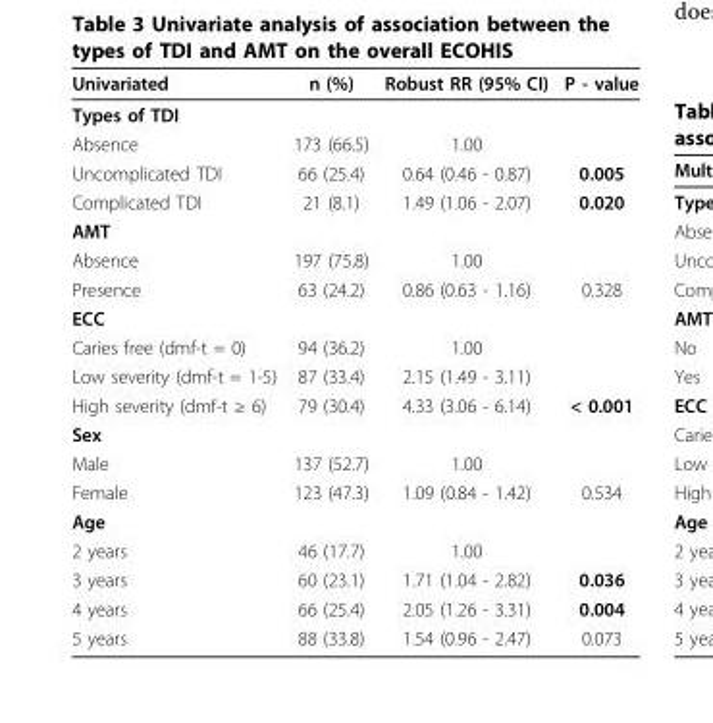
<table><thead><tr><td>Univariated</td><td>n (%)</td><td>Robust RR (95% CI)</td><td>P - value</td></tr></thead><tbody><tr><td colspan="4">Types of TDI</td></tr><tr><td>Absence</td><td>173 (66.5)</td><td>1.00</td><td></td></tr><tr><td>Uncomplicated TDI</td><td>66 (25.4)</td><td>0.64 (0.46 - 0.87)</td><td>0.005</td></tr><tr><td>Complicated TDI</td><td>21 (8.1)</td><td>1.49 (1.06 - 2.07)</td><td>0.020</td></tr><tr><td colspan="4">AMT</td></tr><tr><td>Absence</td><td>197 (75.8)</td><td>1.00</td><td></td></tr><tr><td>Presence</td><td>63 (24.2)</td><td>0.86 (0.63 - 1.16)</td><td>0.328</td></tr><tr><td colspan="4">ECC</td></tr><tr><td>Caries free (dmf-t = 0)</td><td>94 (36.2)</td><td>1.00</td><td></td></tr><tr><td>Low severity (dmf-t = 1-5)</td><td>87 (33.4)</td><td>2.15 (1.49 - 3.11)</td><td></td></tr><tr><td>High severity (dmf-t ≥ 6)</td><td>79 (30.4)</td><td>4.33 (3.06 - 6.14)</td><td>&lt; 0.001</td></tr><tr><td colspan="4">Sex</td></tr><tr><td>Male</td><td>137 (52.7)</td><td>1.00</td><td></td></tr><tr><td>Female</td><td>123 (47.3)</td><td>1.09 (0.84 - 1.42)</td><td>0.534</td></tr><tr><td colspan="4">Age</td></tr><tr><td>2 years</td><td>46 (17.7)</td><td>1.00</td><td></td></tr><tr><td>3 years</td><td>60 (23.1)</td><td>1.71 (1.04 - 2.82)</td><td>0.036</td></tr><tr><td>4 years</td><td>66 (25.4)</td><td>2.05 (1.26 - 3.31)</td><td>0.004</td></tr><tr><td>5 years</td><td>88 (33.8)</td><td>1.54 (0.96 - 2.47)</td><td>0.073</td></tr></tbody></table>